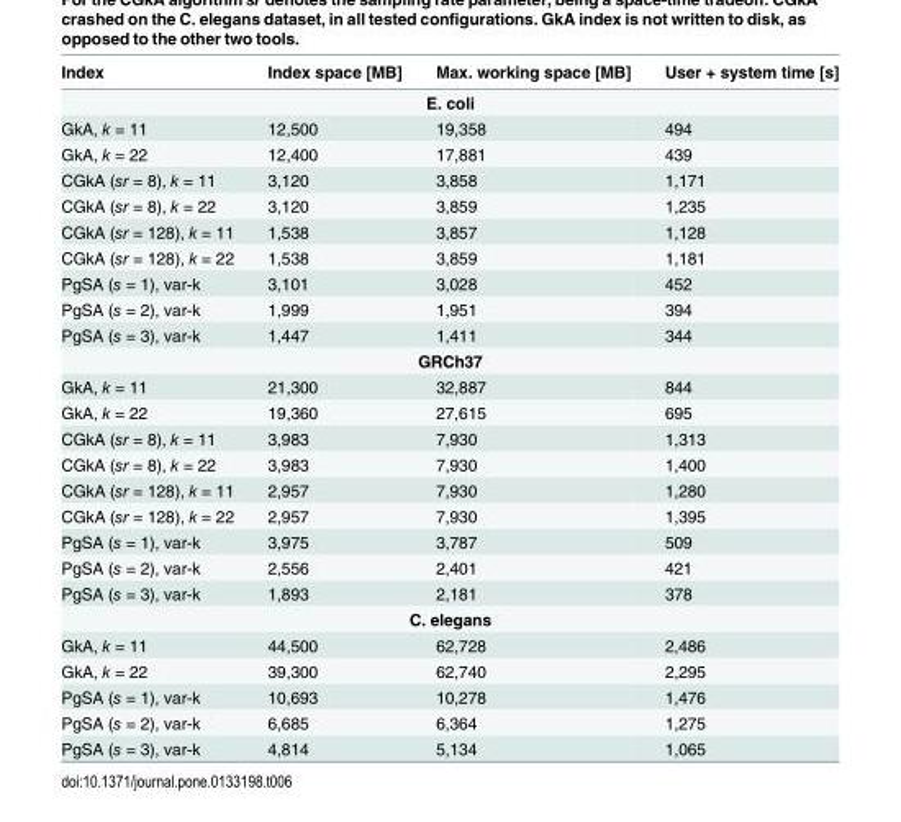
<table><thead><tr><td>Index</td><td>Index space [MB]</td><td>Max. working space [MB]</td><td>User + system time [s]</td></tr></thead><tbody><tr><td colspan="4">E. coli</td></tr><tr><td>GkA, k = 11</td><td>12,500</td><td>19,358</td><td>494</td></tr><tr><td>GkA, k = 22</td><td>12,400</td><td>17,881</td><td>439</td></tr><tr><td>CGkA (sr = 8), k = 11</td><td>3,120</td><td>3,858</td><td>1,171</td></tr><tr><td>CGkA (sr = 8), k = 22</td><td>3,120</td><td>3,859</td><td>1,235</td></tr><tr><td>CGkA (sr = 128), k = 11</td><td>1,538</td><td>3,857</td><td>1,128</td></tr><tr><td>CGkA (sr = 128), k = 22</td><td>1,538</td><td>3,859</td><td>1,181</td></tr><tr><td>PgSA (s = 1), var-k</td><td>3,101</td><td>3,028</td><td>452</td></tr><tr><td>PgSA (s = 2), var-k</td><td>1,999</td><td>1,951</td><td>394</td></tr><tr><td>PgSA (s = 3), var-k</td><td>1,447</td><td>1,411</td><td>344</td></tr><tr><td colspan="4">GRCh37</td></tr><tr><td>GkA, k = 11</td><td>21,300</td><td>32,887</td><td>844</td></tr><tr><td>GkA, k = 22</td><td>19,360</td><td>27,615</td><td>695</td></tr><tr><td>CGkA (sr = 8), k = 11</td><td>3,983</td><td>7,930</td><td>1,313</td></tr><tr><td>CGkA (sr = 8), k = 22</td><td>3,983</td><td>7,930</td><td>1,400</td></tr><tr><td>CGkA (sr = 128), k = 11</td><td>2,957</td><td>7,930</td><td>1,280</td></tr><tr><td>CGkA (sr = 128), k = 22</td><td>2,957</td><td>7,930</td><td>1,395</td></tr><tr><td>PgSA (s = 1), var-k</td><td>3,975</td><td>3,787</td><td>509</td></tr><tr><td>PgSA (s = 2), var-k</td><td>2,556</td><td>2,401</td><td>421</td></tr><tr><td>PgSA (s = 3), var-k</td><td>1,893</td><td>2,181</td><td>378</td></tr><tr><td colspan="4">C. elegans</td></tr><tr><td>GkA, k = 11</td><td>44,500</td><td>62,728</td><td>2,486</td></tr><tr><td>GkA, k = 22</td><td>39,300</td><td>62,740</td><td>2,295</td></tr><tr><td>PgSA (s = 1), var-k</td><td>10,693</td><td>10,278</td><td>1,476</td></tr><tr><td>PgSA (s = 2), var-k</td><td>6,685</td><td>6,364</td><td>1,275</td></tr><tr><td>PgSA (s = 3), var-k</td><td>4,814</td><td>5,134</td><td>1,065</td></tr></tbody></table>